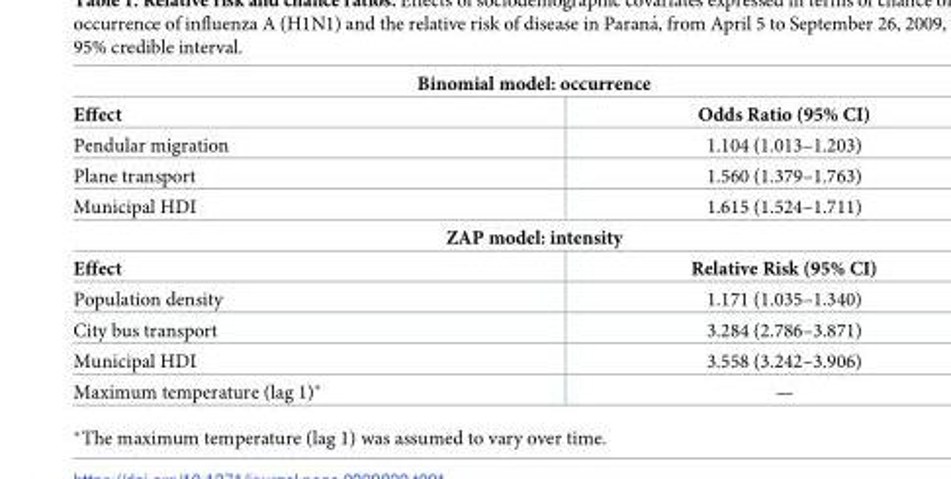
<table><tbody><tr><td colspan="2">Binomial model: occurrence</td></tr><tr><td>Effect</td><td>Odds Ratio (95% CI)</td></tr><tr><td>Pendular migration</td><td>1.104 (1.013–1.203)</td></tr><tr><td>Plane transport</td><td>1.560 (1.379–1.763)</td></tr><tr><td>Municipal HDI</td><td>1.615 (1.524–1.711)</td></tr><tr><td colspan="2">ZAP model: intensity</td></tr><tr><td>Effect</td><td>Relative Risk (95% CI)</td></tr><tr><td>Population density</td><td>1.171 (1.035–1.340)</td></tr><tr><td>City bus transport</td><td>3.284 (2.786–3.871)</td></tr><tr><td>Municipal HDI</td><td>3.558 (3.242–3.906)</td></tr><tr><td>Maximum temperature (lag 1)*</td><td>—</td></tr></tbody></table>